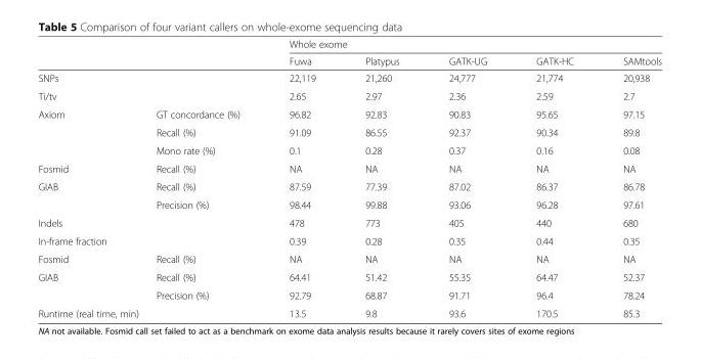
<table><thead><tr><td rowspan="2"></td><td rowspan="2"></td><td colspan="5">Whole exome</td></tr><tr><td>Fuwa</td><td>Platypus</td><td>GATK-UG</td><td>GATK-HC</td><td>SAMtools</td></tr></thead><tbody><tr><td colspan="2">SNPs</td><td>22,119</td><td>21,260</td><td>24,777</td><td>21,774</td><td>20,938</td></tr><tr><td>Ti/tv</td><td></td><td>2.65</td><td>2.97</td><td>2.36</td><td>2.59</td><td>2.7</td></tr><tr><td rowspan="3">Axiom</td><td>GT concordance (%)</td><td>96.82</td><td>92.83</td><td>90.83</td><td>95.65</td><td>97.15</td></tr><tr><td>Recall (%)</td><td>91.09</td><td>86.55</td><td>92.37</td><td>90.34</td><td>89.8</td></tr><tr><td>Mono rate (%)</td><td>0.1</td><td>0.28</td><td>0.37</td><td>0.16</td><td>0.08</td></tr><tr><td>Fosmid</td><td>Recall (%)</td><td>NA</td><td>NA</td><td>NA</td><td>NA</td><td>NA</td></tr><tr><td rowspan="2">GIAB</td><td>Recall (%)</td><td>87.59</td><td>77.39</td><td>87.02</td><td>86.37</td><td>86.78</td></tr><tr><td>Precision (%)</td><td>98.44</td><td>99.88</td><td>93.06</td><td>96.28</td><td>97.61</td></tr><tr><td colspan="2">Indels</td><td>478</td><td>773</td><td>405</td><td>440</td><td>680</td></tr><tr><td>In-frame fraction</td><td></td><td>0.39</td><td>0.28</td><td>0.35</td><td>0.44</td><td>0.35</td></tr><tr><td>Fosmid</td><td>Recall (%)</td><td>NA</td><td>NA</td><td>NA</td><td>NA</td><td>NA</td></tr><tr><td rowspan="2">GIAB</td><td>Recall (%)</td><td>64.41</td><td>51.42</td><td>55.35</td><td>64.47</td><td>52.37</td></tr><tr><td>Precision (%)</td><td>92.79</td><td>68.87</td><td>91.71</td><td>96.4</td><td>78.24</td></tr><tr><td colspan="2">Runtime (real time, min)</td><td>13.5</td><td>9.8</td><td>93.6</td><td>170.5</td><td>85.3</td></tr></tbody></table>